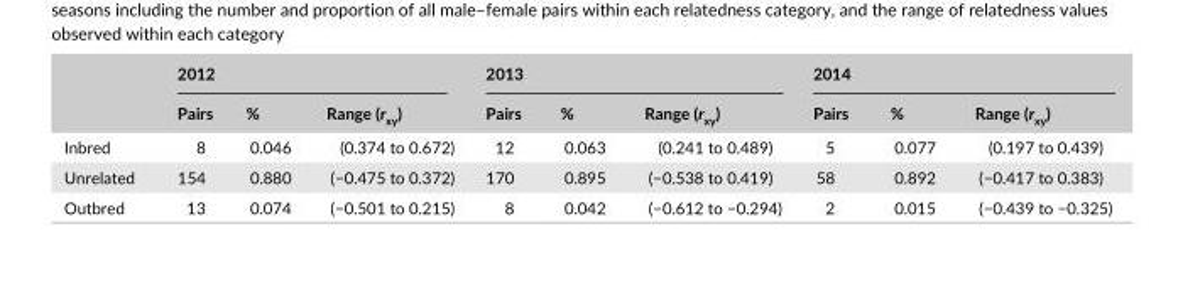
<table><thead><tr><td rowspan="2"></td><td colspan="3">2012</td><td colspan="3">2013</td><td colspan="3">2014</td></tr><tr><td>Pairs</td><td>%</td><td>Range (r<sub>xy</sub>)</td><td>Pairs</td><td>%</td><td>Range (r<sub>xy</sub>)</td><td>Pairs</td><td>%</td><td>Range (r<sub>xy</sub>)</td></tr></thead><tbody><tr><td>Inbred</td><td>8</td><td>0.046</td><td>(0.374 to 0.672)</td><td>12</td><td>0.063</td><td>(0.241 to 0.489)</td><td>5</td><td>0.077</td><td>(0.197 to 0.439)</td></tr><tr><td>Unrelated</td><td>154</td><td>0.880</td><td>(−0.475 to 0.372)</td><td>170</td><td>0.895</td><td>(−0.538 to 0.419)</td><td>58</td><td>0.892</td><td>(−0.417 to 0.383)</td></tr><tr><td>Outbred</td><td>13</td><td>0.074</td><td>(−0.501 to 0.215)</td><td>8</td><td>0.042</td><td>(−0.612 to −0.294)</td><td>2</td><td>0.015</td><td>(−0.439 to −0.325)</td></tr></tbody></table>